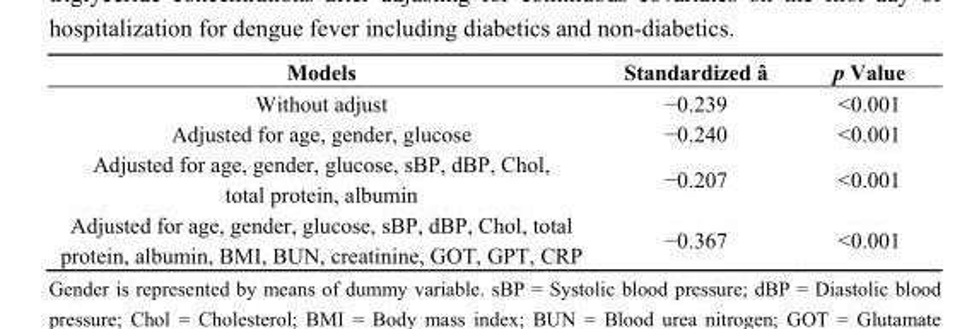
<table><thead><tr><td>Models</td><td>Standardized â</td><td>p Value</td></tr></thead><tbody><tr><td>Without adjust</td><td>−0.239</td><td>&lt;0.001</td></tr><tr><td>Adjusted for age, gender, glucose</td><td>−0.240</td><td>&lt;0.001</td></tr><tr><td>Adjusted for age, gender, glucose, sBP, dBP, Chol, total protein, albumin</td><td>−0.207</td><td>&lt;0.001</td></tr><tr><td>Adjusted for age, gender, glucose, sBP, dBP, Chol, total protein, albumin, BMI, BUN, creatinine, GOT, GPT, CRP</td><td>−0.367</td><td>&lt;0.001</td></tr></tbody></table>